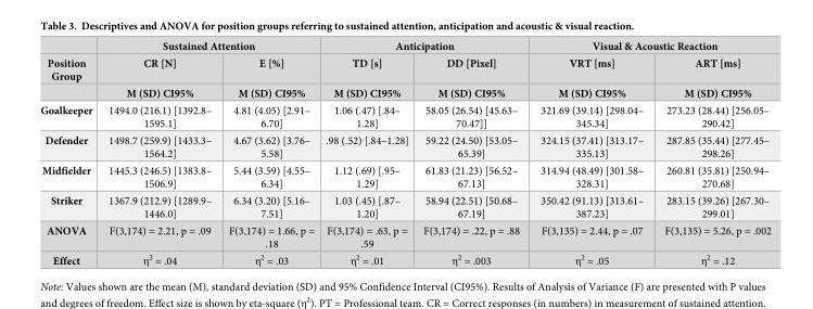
<table><thead><tr><td rowspan="3">Position Group</td><td colspan="2">Sustained Attention</td><td colspan="2">Anticipation</td><td colspan="2">Visual &amp; Acoustic Reaction</td></tr><tr><td rowspan="2">CR [N] M (SD) CI95%</td><td rowspan="2">E [%] M (SD) CI95%</td><td rowspan="2">TD [s] M (SD) CI95%</td><td rowspan="2">DD [Pixel] M (SD) CI95%</td><td rowspan="2">VRT [ms] M (SD) CI95%</td><td rowspan="2">ART [ms] M (SD) CI95%</td></tr><tr></tr></thead><tbody><tr><td>Goalkeeper</td><td>1494.0 (216.1) [1392.8– 1595.1]</td><td>4.81 (4.05) [2.91– 6.70]</td><td>1.06 (.47) [.84– 1.28]</td><td>58.05 (26.54) [45.63– 70.47]]</td><td>321.69 (39.14) [298.04– 345.34]</td><td>273.23 (28.44) [256.05– 290.42]</td></tr><tr><td>Defender</td><td>1498.7 (259.9) [1433.3– 1564.2]</td><td>4.67 (3.62) [3.76– 5.58]</td><td>.98 (.52) [.84–1.28]</td><td>59.22 (24.50) [53.05– 65.39]</td><td>324.15 (37.41) [313.17– 335.13]</td><td>287.85 (35.44) [277.45– 298.26]</td></tr><tr><td>Midfielder</td><td>1445.3 (246.5) [1383.8– 1506.9]</td><td>5.44 (3.59) [4.55– 6.34]</td><td>1.12 (.69) [.95– 1.29]</td><td>61.83 (21.23) [56.52– 67.13]</td><td>314.94 (48.49) [301.58– 328.31]</td><td>260.81 (35.81) [250.94– 270.68]</td></tr><tr><td>Striker</td><td>1367.9 (212.9) [1289.9– 1446.0]</td><td>6.34 (3.20) [5.16– 7.51]</td><td>1.03 (.45) [.87– 1.20]</td><td>58.94 (22.51) [50.68– 67.19]</td><td>350.42 (91.13) [313.61– 387.23]</td><td>283.15 (39.26) [267.30– 299.01]</td></tr><tr><td>ANOVA</td><td>F(3,174) = 2.21, p = .09</td><td>F(3,174) = 1.66, p = .18</td><td>F(3,174) = .63, p = .59</td><td>F(3,174) = .22, p = .88</td><td>F(3,135) = 2.44, p = .07</td><td>F(3,135) = 5.26, p = .002</td></tr><tr><td>Effect</td><td>η<sup>2</sup> = .04</td><td>η<sup>2</sup> = .03</td><td>η<sup>2</sup> = .01</td><td>η<sup>2</sup> = .003</td><td>η<sup>2</sup> = .05</td><td>η<sup>2</sup> = .12</td></tr></tbody></table>